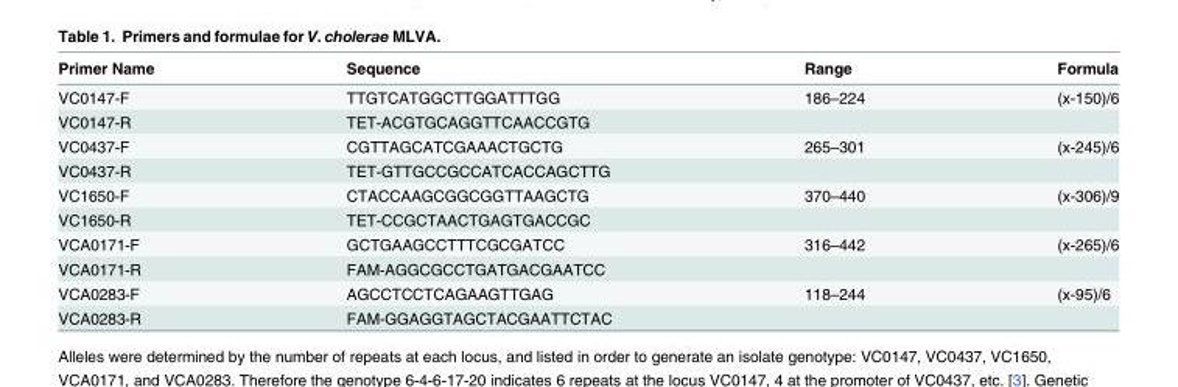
<table><thead><tr><td>Primer Name</td><td>Sequence</td><td>Range</td><td>Formula</td></tr></thead><tbody><tr><td>VC0147-F</td><td>TTGTCATGGCTTGGATTTGG</td><td>186–224</td><td>(x-150)/6</td></tr><tr><td>VC0147-R</td><td>TET-ACGTGCAGGTTCAACCGTG</td><td></td><td></td></tr><tr><td>VC0437-F</td><td>CGTTAGCATCGAAACTGCTG</td><td>265–301</td><td>(x-245)/6</td></tr><tr><td>VC0437-R</td><td>TET-GTTGCCGCCATCACCAGCTTG</td><td></td><td></td></tr><tr><td>VC1650-F</td><td>CTACCAAGCGGCGGTTAAGCTG</td><td>370–440</td><td>(x-306)/9</td></tr><tr><td>VC1650-R</td><td>TET-CCGCTAACTGAGTGACCGC</td><td></td><td></td></tr><tr><td>VCA0171-F</td><td>GCTGAAGCCTTTCGCGATCC</td><td>316–442</td><td>(x-265)/6</td></tr><tr><td>VCA0171-R</td><td>FAM-AGGCGCCTGATGACGAATCC</td><td></td><td></td></tr><tr><td>VCA0283-F</td><td>AGCCTCCTCAGAAGTTGAG</td><td>118–244</td><td>(x-95)/6</td></tr><tr><td>VCA0283-R</td><td>FAM-GGAGGTAGCTACGAATTCTAC</td><td></td><td></td></tr></tbody></table>